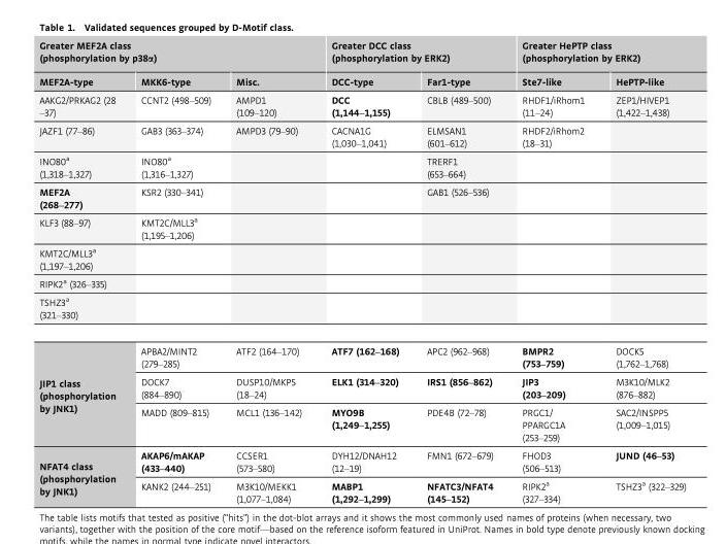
<table><thead><tr><td colspan="3">Greater MEF2A class (phosphorylation by p38α)</td><td colspan="2">Greater DCC class (phosphorylation by ERK2)</td><td colspan="2">Greater HePTP class (phosphorylation by ERK2)</td></tr><tr><td>MEF2A-type</td><td>MKK6-type</td><td>Misc.</td><td>DCC-type</td><td>Far1-type</td><td>Ste7-like</td><td>HePTP-like</td></tr></thead><tbody><tr><td>AAKG2/PRKAG2 (28 –37)</td><td>CCNT2 (498–509)</td><td>AMPD1 (109–120)</td><td>DCC (1,144–1,155)</td><td>CBLB (489–500)</td><td>RHDF1/iRhom1 (11–24)</td><td>ZEP1/HIVEP1 (1,422–1,438)</td></tr><tr><td>JAZF1 (77–86)</td><td>GAB3 (363–374)</td><td>AMPD3 (79–90)</td><td>CACNA1G (1,030–1,041)</td><td>ELMSAN1 (601–612)</td><td>RHDF2/iRhom2 (18–31)</td><td></td></tr><tr><td>INO80<sup>a</sup> (1,318–1,327)</td><td>INO80<sup>a</sup> (1,316–1,327)</td><td></td><td></td><td>TRERF1 (653–664)</td><td></td><td></td></tr><tr><td>MEF2A (268–277)</td><td>KSR2 (330–341)</td><td></td><td></td><td>GAB1 (526–536)</td><td></td><td></td></tr><tr><td>KLF3 (88–97)</td><td>KMT2C/MLL3<sup>a</sup> (1,195–1,206)</td><td></td><td></td><td></td><td></td><td></td></tr><tr><td colspan="7">KMT2C/MLL3<sup>a</sup> (1,197–1,206)</td></tr><tr><td colspan="7">RIPK2<sup>a</sup> (326–335)</td></tr><tr><td colspan="7">TSHZ3<sup>a</sup> (321–330)</td></tr><tr><td rowspan="3">JIP1 class (phosphorylation by JNK1)</td><td>APBA2/MINT2 (279–285)</td><td>ATF2 (164–170)</td><td>ATF7 (162–168)</td><td>APC2 (962–968)</td><td>BMPR2 (753–759)</td><td>DOCK5 (1,762–1,768)</td></tr><tr><td>DOCK7 (884–890)</td><td>DUSP10/MKP5 (18–24)</td><td>ELK1 (314–320)</td><td>IRS1 (856–862)</td><td>JIP3 (203–209)</td><td>M3K10/MLK2 (876–882)</td></tr><tr><td>MADD (809–815)</td><td>MCL1 (136–142)</td><td>MYO9B (1,249–1,255)</td><td>PDE4B (72–78)</td><td>PRGC1/ PPARGC1A (253–259)</td><td>SAC2/INSPP5 (1,009–1,015)</td></tr><tr><td rowspan="2">NFAT4 class (phosphorylation by JNK1)</td><td>AKAP6/mAKAP (433–440)</td><td>CCSER1 (573–580)</td><td>DYH12/DNAH12 (12–19)</td><td>FMN1 (672–679)</td><td>FHOD3 (506–513)</td><td>JUND (46–53)</td></tr><tr><td>KANK2 (244–251)</td><td>M3K10/MEKK1 (1,077–1,084)</td><td>MABP1 (1,292–1,299)</td><td>NFATC3/NFAT4 (145–152)</td><td>RIPK2<sup>a</sup> (327–334)</td><td>TSHZ3<sup>a</sup> (322–329)</td></tr></tbody></table>